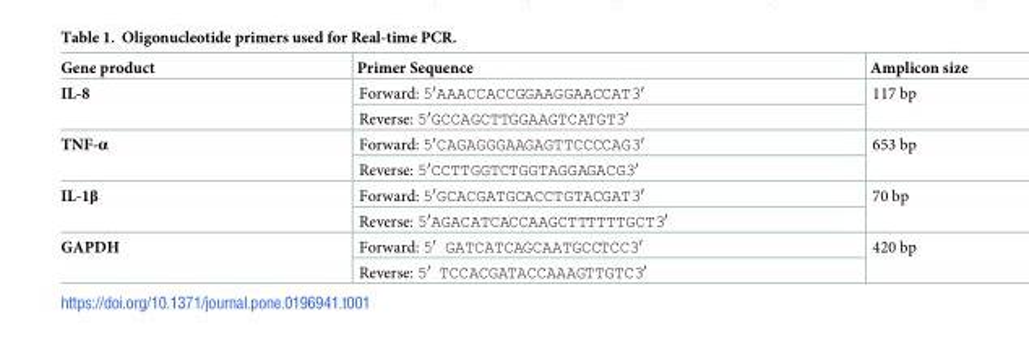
<table><thead><tr><td>Gene product</td><td>Primer Sequence</td><td>Amplicon size</td></tr></thead><tbody><tr><td rowspan="2">IL-8</td><td>Forward: 5′AAACCACCGGAAGGAACCAT3′</td><td rowspan="2">117 bp</td></tr><tr><td>Reverse: 5′GCCAGCTTGGAAGTCATGT3′</td></tr><tr><td rowspan="2">TNF-α</td><td>Forward: 5′CAGAGGGAAGAGTTCCCCAG3′</td><td rowspan="2">653 bp</td></tr><tr><td>Reverse: 5′CCTTGGTCTGGTAGGAGACG3′</td></tr><tr><td rowspan="2">IL-1β</td><td>Forward: 5′GCACGATGCACCTGTACGAT3′</td><td rowspan="2">70 bp</td></tr><tr><td>Reverse: 5′AGACATCACCAAGCTTTTTTGCT3′</td></tr><tr><td rowspan="2">GAPDH</td><td>Forward: 5′ GATCATCAGCAATGCCTCC3′</td><td rowspan="2">420 bp</td></tr><tr><td>Reverse: 5′ TCCACGATACCAAAGTTGTC3′</td></tr></tbody></table>